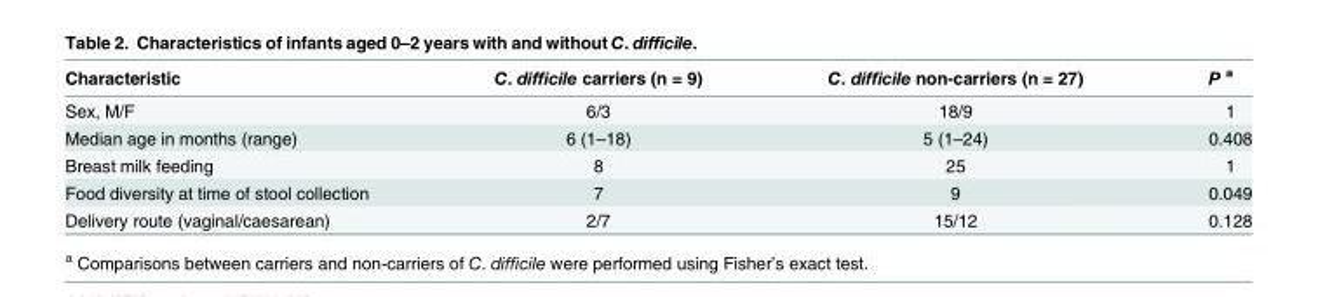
<table><thead><tr><td>Characteristic</td><td>C. difficile carriers (n = 9)</td><td>C. difficile non-carriers (n = 27)</td><td>P <sup>a</sup></td></tr></thead><tbody><tr><td>Sex, M/F</td><td>6/3</td><td>18/9</td><td>1</td></tr><tr><td>Median age in months (range)</td><td>6 (1–18)</td><td>5 (1–24)</td><td>0.408</td></tr><tr><td>Breast milk feeding</td><td>8</td><td>25</td><td>1</td></tr><tr><td>Food diversity at time of stool collection</td><td>7</td><td>9</td><td>0.049</td></tr><tr><td>Delivery route (vaginal/caesarean)</td><td>2/7</td><td>15/12</td><td>0.128</td></tr></tbody></table>